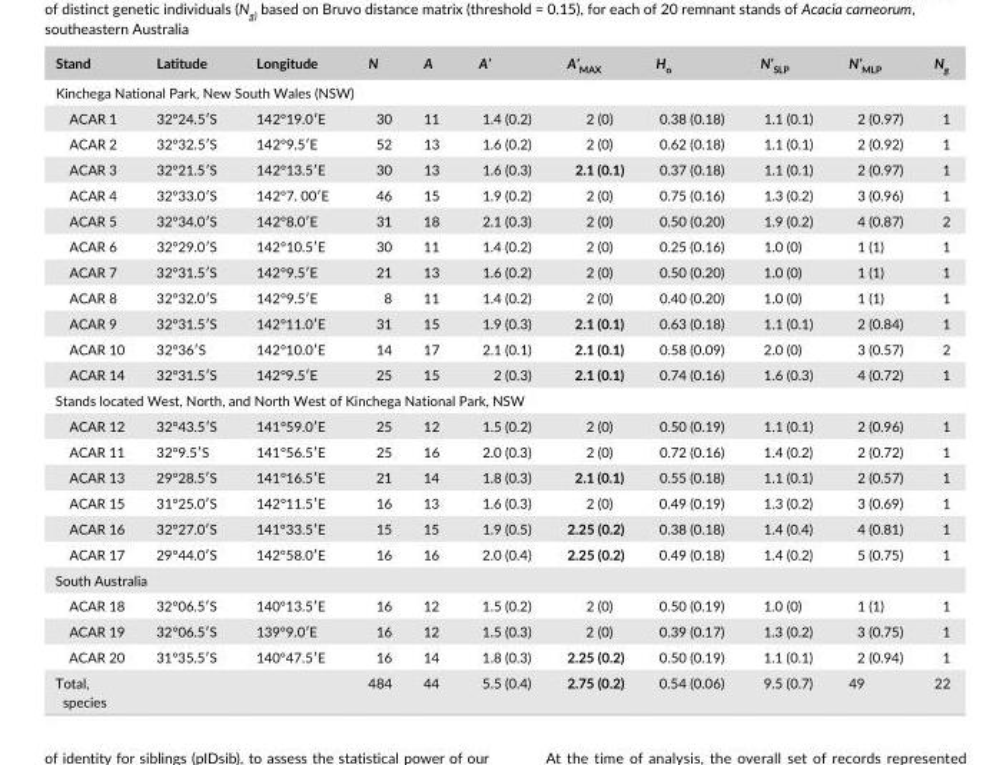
<table><thead><tr><td>Stand</td><td>Latitude</td><td>Longitude</td><td>N</td><td>A</td><td>A’</td><td>A’<sub>MAX</sub></td><td>H<sub>o</sub></td><td>N’<sub>SLP</sub></td><td>N’<sub>MLP</sub></td><td>N<sub>g</sub></td></tr></thead><tbody><tr><td colspan="11">Kinchega National Park, New South Wales (NSW)</td></tr><tr><td>ACAR 1</td><td>32°24.5′S</td><td>142°19.0′E</td><td>30</td><td>11</td><td>1.4 (0.2)</td><td>2 (0)</td><td>0.38 (0.18)</td><td>1.1 (0.1)</td><td>2 (0.97)</td><td>1</td></tr><tr><td>ACAR 2</td><td>32°32.5′S</td><td>142°9.5′E</td><td>52</td><td>13</td><td>1.6 (0.2)</td><td>2 (0)</td><td>0.62 (0.18)</td><td>1.1 (0.1)</td><td>2 (0.92)</td><td>1</td></tr><tr><td>ACAR 3</td><td>32°21.5′S</td><td>142°13.5′E</td><td>30</td><td>13</td><td>1.6 (0.3)</td><td>2.1 (0.1)</td><td>0.37 (0.18)</td><td>1.1 (0.1)</td><td>2 (0.97)</td><td>1</td></tr><tr><td>ACAR 4</td><td>32°33.0′S</td><td>142°7. 00′E</td><td>46</td><td>15</td><td>1.9 (0.2)</td><td>2 (0)</td><td>0.75 (0.16)</td><td>1.3 (0.2)</td><td>3 (0.96)</td><td>1</td></tr><tr><td>ACAR 5</td><td>32°34.0′S</td><td>142°8.0′E</td><td>31</td><td>18</td><td>2.1 (0.3)</td><td>2 (0)</td><td>0.50 (0.20)</td><td>1.9 (0.2)</td><td>4 (0.87)</td><td>2</td></tr><tr><td>ACAR 6</td><td>32°29.0′S</td><td>142°10.5′E</td><td>30</td><td>11</td><td>1.4 (0.2)</td><td>2 (0)</td><td>0.25 (0.16)</td><td>1.0 (0)</td><td>1 (1)</td><td>1</td></tr><tr><td>ACAR 7</td><td>32°31.5′S</td><td>142°9.5′E</td><td>21</td><td>13</td><td>1.6 (0.2)</td><td>2 (0)</td><td>0.50 (0.20)</td><td>1.0 (0)</td><td>1 (1)</td><td>1</td></tr><tr><td>ACAR 8</td><td>32°32.0′S</td><td>142°9.5′E</td><td>8</td><td>11</td><td>1.4 (0.2)</td><td>2 (0)</td><td>0.40 (0.20)</td><td>1.0 (0)</td><td>1 (1)</td><td>1</td></tr><tr><td>ACAR 9</td><td>32°31.5′S</td><td>142°11.0′E</td><td>31</td><td>15</td><td>1.9 (0.3)</td><td>2.1 (0.1)</td><td>0.63 (0.18)</td><td>1.1 (0.1)</td><td>2 (0.84)</td><td>1</td></tr><tr><td>ACAR 10</td><td>32°36′S</td><td>142°10.0′E</td><td>14</td><td>17</td><td>2.1 (0.1)</td><td>2.1 (0.1)</td><td>0.58 (0.09)</td><td>2.0 (0)</td><td>3 (0.57)</td><td>2</td></tr><tr><td>ACAR 14</td><td>32°31.5′S</td><td>142°9.5′E</td><td>25</td><td>15</td><td>2 (0.3)</td><td>2.1 (0.1)</td><td>0.74 (0.16)</td><td>1.6 (0.3)</td><td>4 (0.72)</td><td>1</td></tr><tr><td colspan="11">Stands located West, North, and North West of Kinchega National Park, NSW</td></tr><tr><td>ACAR 12</td><td>32°43.5′S</td><td>141°59.0′E</td><td>25</td><td>12</td><td>1.5 (0.2)</td><td>2 (0)</td><td>0.50 (0.19)</td><td>1.1 (0.1)</td><td>2 (0.96)</td><td>1</td></tr><tr><td>ACAR 11</td><td>32°9.5′S</td><td>141°56.5′E</td><td>25</td><td>16</td><td>2.0 (0.3)</td><td>2 (0)</td><td>0.72 (0.16)</td><td>1.4 (0.2)</td><td>2 (0.72)</td><td>1</td></tr><tr><td>ACAR 13</td><td>29°28.5′S</td><td>141°16.5′E</td><td>21</td><td>14</td><td>1.8 (0.3)</td><td>2.1 (0.1)</td><td>0.55 (0.18)</td><td>1.1 (0.1)</td><td>2 (0.57)</td><td>1</td></tr><tr><td>ACAR 15</td><td>31°25.0′S</td><td>142°11.5′E</td><td>16</td><td>13</td><td>1.6 (0.3)</td><td>2 (0)</td><td>0.49 (0.19)</td><td>1.3 (0.2)</td><td>3 (0.69)</td><td>1</td></tr><tr><td>ACAR 16</td><td>32°27.0′S</td><td>141°33.5′E</td><td>15</td><td>15</td><td>1.9 (0.5)</td><td>2.25 (0.2)</td><td>0.38 (0.18)</td><td>1.4 (0.4)</td><td>4 (0.81)</td><td>1</td></tr><tr><td>ACAR 17</td><td>29°44.0′S</td><td>142°58.0′E</td><td>16</td><td>16</td><td>2.0 (0.4)</td><td>2.25 (0.2)</td><td>0.49 (0.18)</td><td>1.4 (0.2)</td><td>5 (0.75)</td><td>1</td></tr><tr><td colspan="11">South Australia</td></tr><tr><td>ACAR 18</td><td>32°06.5′S</td><td>140°13.5′E</td><td>16</td><td>12</td><td>1.5 (0.2)</td><td>2 (0)</td><td>0.50 (0.19)</td><td>1.0 (0)</td><td>1 (1)</td><td>1</td></tr><tr><td>ACAR 19</td><td>32°06.5′S</td><td>139°9.0′E</td><td>16</td><td>12</td><td>1.5 (0.3)</td><td>2 (0)</td><td>0.39 (0.17)</td><td>1.3 (0.2)</td><td>3 (0.75)</td><td>1</td></tr><tr><td>ACAR 20</td><td>31°35.5′S</td><td>140°47.5′E</td><td>16</td><td>14</td><td>1.8 (0.3)</td><td>2.25 (0.2)</td><td>0.50 (0.19)</td><td>1.1 (0.1)</td><td>2 (0.94)</td><td>1</td></tr><tr><td>Total, species</td><td></td><td></td><td>484</td><td>44</td><td>5.5 (0.4)</td><td>2.75 (0.2)</td><td>0.54 (0.06)</td><td>9.5 (0.7)</td><td>49</td><td>22</td></tr></tbody></table>